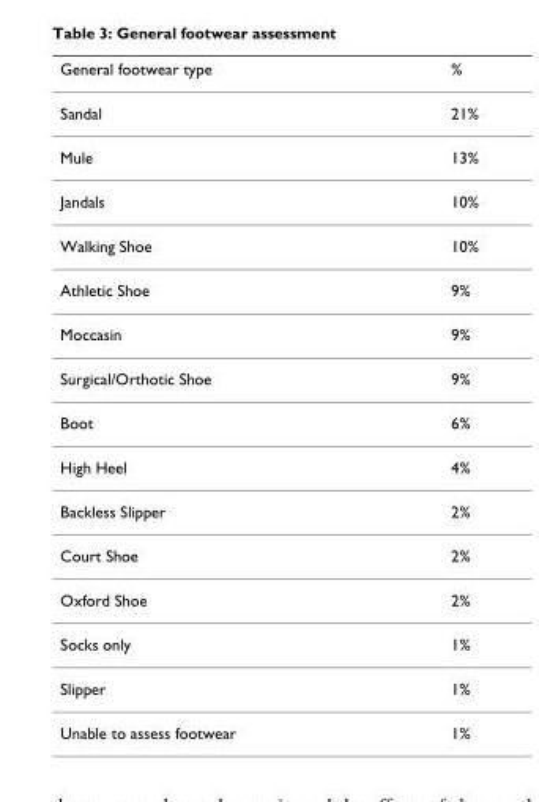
<table><thead><tr><td>General footwear type</td><td>%</td></tr></thead><tbody><tr><td>Sandal</td><td>21%</td></tr><tr><td>Mule</td><td>13%</td></tr><tr><td>Jandals</td><td>10%</td></tr><tr><td>Walking Shoe</td><td>10%</td></tr><tr><td>Athletic Shoe</td><td>9%</td></tr><tr><td>Moccasin</td><td>9%</td></tr><tr><td>Surgical/Orthotic Shoe</td><td>9%</td></tr><tr><td>Boot</td><td>6%</td></tr><tr><td>High Heel</td><td>4%</td></tr><tr><td>Backless Slipper</td><td>2%</td></tr><tr><td>Court Shoe</td><td>2%</td></tr><tr><td>Oxford Shoe</td><td>2%</td></tr><tr><td>Socks only</td><td>1%</td></tr><tr><td>Slipper</td><td>1%</td></tr><tr><td>Unable to assess footwear</td><td>1%</td></tr></tbody></table>